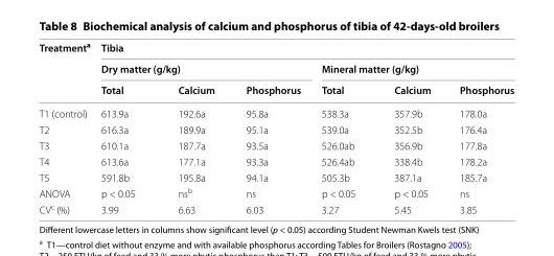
<table><thead><tr><td rowspan="3">Treatment<sup>a</sup></td><td colspan="6">Tibia</td></tr><tr><td colspan="3">Dry matter (g/kg)</td><td colspan="3">Mineral matter (g/kg)</td></tr><tr><td>Total</td><td>Calcium</td><td>Phosphorus</td><td>Total</td><td>Calcium</td><td>Phosphorus</td></tr></thead><tbody><tr><td>T1 (control)</td><td>613.9a</td><td>192.6a</td><td>95.8a</td><td>538.3a</td><td>357.9b</td><td>178.0a</td></tr><tr><td>T2</td><td>616.3a</td><td>189.9a</td><td>95.1a</td><td>539.0a</td><td>352.5b</td><td>176.4a</td></tr><tr><td>T3</td><td>610.1a</td><td>187.7a</td><td>93.5a</td><td>526.0ab</td><td>356.9b</td><td>177.8a</td></tr><tr><td>T4</td><td>613.6a</td><td>177.1a</td><td>93.3a</td><td>526.4ab</td><td>338.4b</td><td>178.2a</td></tr><tr><td>T5</td><td>591.8b</td><td>195.8a</td><td>94.1a</td><td>505.3b</td><td>387.1a</td><td>185.7a</td></tr><tr><td>ANOVA</td><td>p &lt; 0.05</td><td>ns<sup>b</sup></td><td>ns</td><td>p &lt; 0.05</td><td>p &lt; 0.05</td><td>ns</td></tr><tr><td>CV<sup>c</sup> (%)</td><td>3.99</td><td>6.63</td><td>6.03</td><td>3.27</td><td>5.45</td><td>3.85</td></tr></tbody></table>